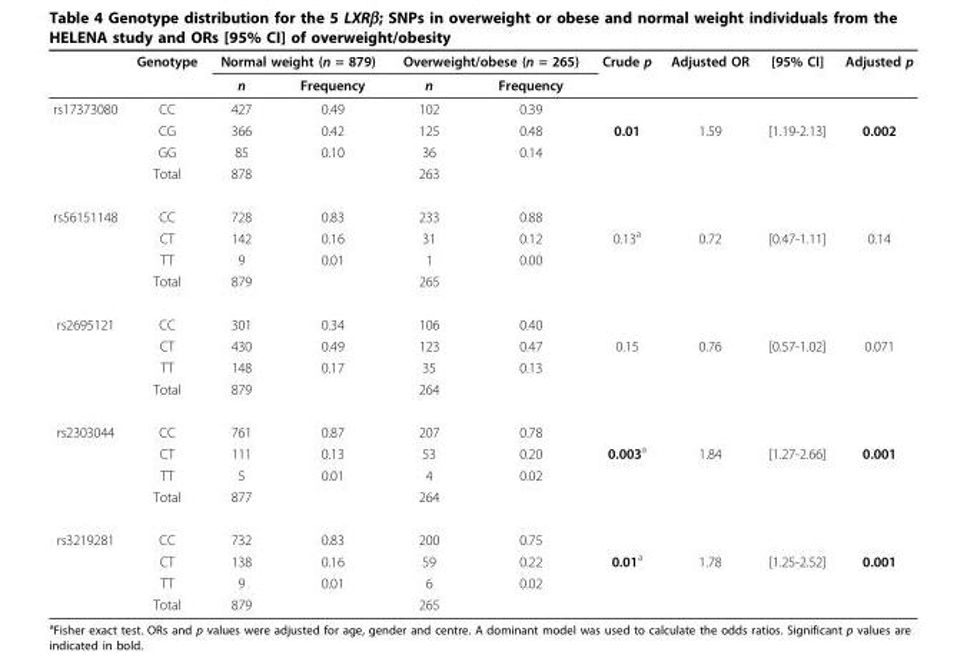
<table><thead><tr><td rowspan="2"></td><td rowspan="2">Genotype</td><td colspan="2">Normal weight (n = 879)</td><td colspan="2">Overweight/obese (n = 265)</td><td rowspan="2">Crude p</td><td rowspan="2">Adjusted OR</td><td rowspan="2">[95% CI]</td><td rowspan="2">Adjusted p</td></tr><tr><td>n</td><td>Frequency</td><td>n</td><td>Frequency</td></tr></thead><tbody><tr><td rowspan="4">rs17373080</td><td>CC</td><td>427</td><td>0.49</td><td>102</td><td>0.39</td><td></td><td></td><td></td><td></td></tr><tr><td>CG</td><td>366</td><td>0.42</td><td>125</td><td>0.48</td><td>0.01</td><td>1.59</td><td>[1.19-2.13]</td><td>0.002</td></tr><tr><td>GG</td><td>85</td><td>0.10</td><td>36</td><td>0.14</td><td></td><td></td><td></td><td></td></tr><tr><td>Total</td><td>878</td><td></td><td>263</td><td></td><td></td><td></td><td></td><td></td></tr><tr><td rowspan="4">rs56151148</td><td>CC</td><td>728</td><td>0.83</td><td>233</td><td>0.88</td><td></td><td></td><td></td><td></td></tr><tr><td>CT</td><td>142</td><td>0.16</td><td>31</td><td>0.12</td><td>0.13<sup>a</sup></td><td>0.72</td><td>[0.47-1.11]</td><td>0.14</td></tr><tr><td>TT</td><td>9</td><td>0.01</td><td>1</td><td>0.00</td><td></td><td></td><td></td><td></td></tr><tr><td>Total</td><td>879</td><td></td><td>265</td><td></td><td></td><td></td><td></td><td></td></tr><tr><td rowspan="4">rs2695121</td><td>CC</td><td>301</td><td>0.34</td><td>106</td><td>0.40</td><td></td><td></td><td></td><td></td></tr><tr><td>CT</td><td>430</td><td>0.49</td><td>123</td><td>0.47</td><td>0.15</td><td>0.76</td><td>[0.57-1.02]</td><td>0.071</td></tr><tr><td>TT</td><td>148</td><td>0.17</td><td>35</td><td>0.13</td><td></td><td></td><td></td><td></td></tr><tr><td>Total</td><td>879</td><td></td><td>264</td><td></td><td></td><td></td><td></td><td></td></tr><tr><td rowspan="4">rs2303044</td><td>CC</td><td>761</td><td>0.87</td><td>207</td><td>0.78</td><td></td><td></td><td></td><td></td></tr><tr><td>CT</td><td>111</td><td>0.13</td><td>53</td><td>0.20</td><td>0.003<sup>a</sup></td><td>1.84</td><td>[1.27-2.66]</td><td>0.001</td></tr><tr><td>TT</td><td>5</td><td>0.01</td><td>4</td><td>0.02</td><td></td><td></td><td></td><td></td></tr><tr><td>Total</td><td>877</td><td></td><td>264</td><td></td><td></td><td></td><td></td><td></td></tr><tr><td rowspan="4">rs3219281</td><td>CC</td><td>732</td><td>0.83</td><td>200</td><td>0.75</td><td></td><td></td><td></td><td></td></tr><tr><td>CT</td><td>138</td><td>0.16</td><td>59</td><td>0.22</td><td>0.01<sup>a</sup></td><td>1.78</td><td>[1.25-2.52]</td><td>0.001</td></tr><tr><td>TT</td><td>9</td><td>0.01</td><td>6</td><td>0.02</td><td></td><td></td><td></td><td></td></tr><tr><td>Total</td><td>879</td><td></td><td>265</td><td></td><td></td><td></td><td></td><td></td></tr></tbody></table>